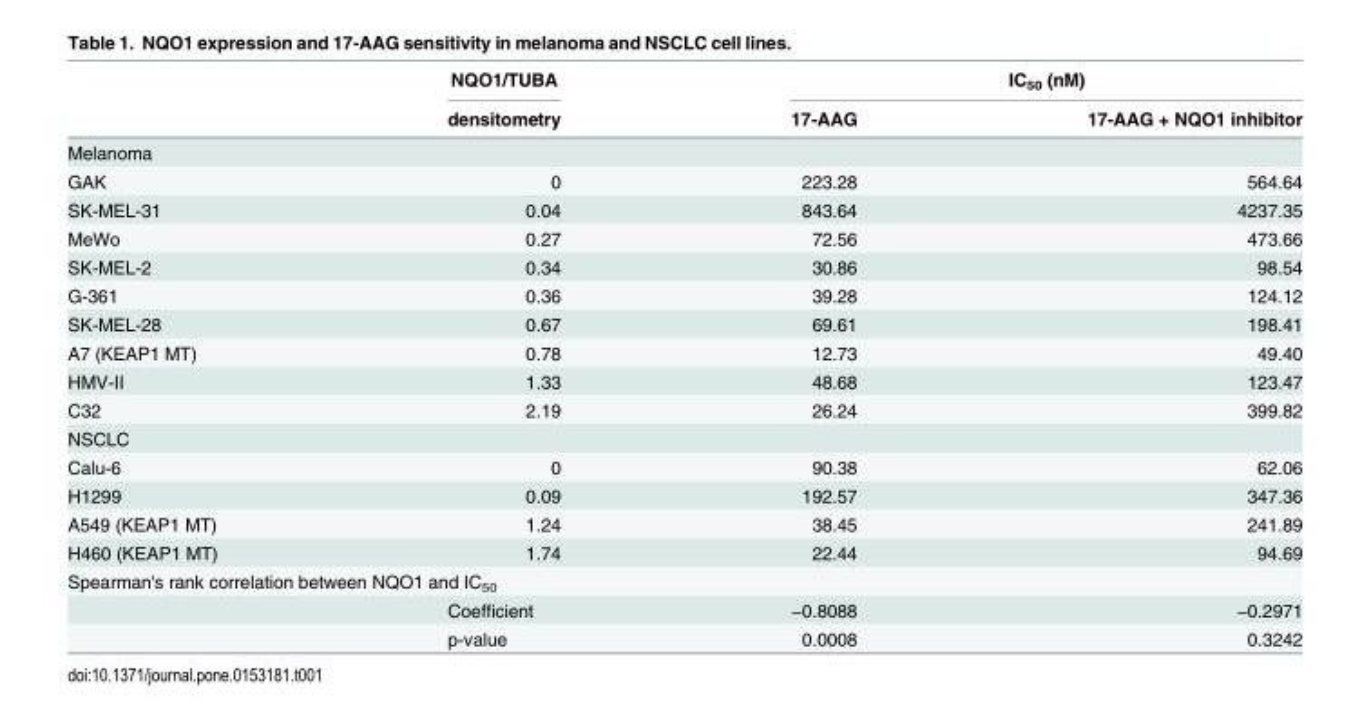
<table><thead><tr><td rowspan="2"></td><td rowspan="2">NQO1/TUBA densitometry</td><td colspan="2">IC<sub>50</sub> (nM)</td></tr><tr><td>17-AAG</td><td>17-AAG + NQO1 inhibitor</td></tr></thead><tbody><tr><td colspan="4">Melanoma</td></tr><tr><td>GAK</td><td>0</td><td>223.28</td><td>564.64</td></tr><tr><td>SK-MEL-31</td><td>0.04</td><td>843.64</td><td>4237.35</td></tr><tr><td>MeWo</td><td>0.27</td><td>72.56</td><td>473.66</td></tr><tr><td>SK-MEL-2</td><td>0.34</td><td>30.86</td><td>98.54</td></tr><tr><td>G-361</td><td>0.36</td><td>39.28</td><td>124.12</td></tr><tr><td>SK-MEL-28</td><td>0.67</td><td>69.61</td><td>198.41</td></tr><tr><td>A7 (KEAP1 MT)</td><td>0.78</td><td>12.73</td><td>49.40</td></tr><tr><td>HMV-II</td><td>1.33</td><td>48.68</td><td>123.47</td></tr><tr><td>C32</td><td>2.19</td><td>26.24</td><td>399.82</td></tr><tr><td colspan="4">NSCLC</td></tr><tr><td>Calu-6</td><td>0</td><td>90.38</td><td>62.06</td></tr><tr><td>H1299</td><td>0.09</td><td>192.57</td><td>347.36</td></tr><tr><td>A549 (KEAP1 MT)</td><td>1.24</td><td>38.45</td><td>241.89</td></tr><tr><td>H460 (KEAP1 MT)</td><td>1.74</td><td>22.44</td><td>94.69</td></tr><tr><td colspan="4">Spearman&#x27;s rank correlation between NQO1 and IC<sub>50</sub></td></tr><tr><td></td><td>Coefficient</td><td>−0.8088</td><td>−0.2971</td></tr><tr><td></td><td>p-value</td><td>0.0008</td><td>0.3242</td></tr></tbody></table>